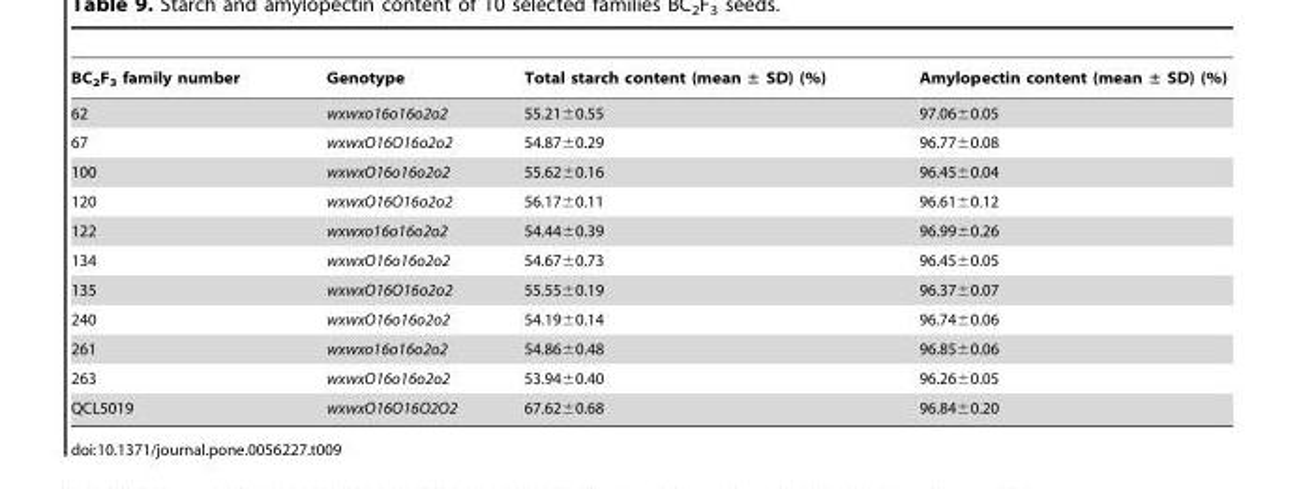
<table><thead><tr><td>BC<sub>2</sub>F<sub>3</sub> family number</td><td>Genotype</td><td>Total starch content (mean ± SD) (%)</td><td>Amylopectin content (mean ± SD) (%)</td></tr></thead><tbody><tr><td>62</td><td>wxwxo16o16o2o2</td><td>55.21±0.55</td><td>97.06±0.05</td></tr><tr><td>67</td><td>wxwxO16O16o2o2</td><td>54.87±0.29</td><td>96.77±0.08</td></tr><tr><td>100</td><td>wxwxO16o16o2o2</td><td>55.62±0.16</td><td>96.45±0.04</td></tr><tr><td>120</td><td>wxwxO16O16o2o2</td><td>56.17±0.11</td><td>96.61±0.12</td></tr><tr><td>122</td><td>wxwxo16o16o2o2</td><td>54.44±0.39</td><td>96.99±0.26</td></tr><tr><td>134</td><td>wxwxO16o16o2o2</td><td>54.67±0.73</td><td>96.45±0.05</td></tr><tr><td>135</td><td>wxwxO16O16o2o2</td><td>55.55±0.19</td><td>96.37±0.07</td></tr><tr><td>240</td><td>wxwxO16o16o2o2</td><td>54.19±0.14</td><td>96.74±0.06</td></tr><tr><td>261</td><td>wxwxo16o16o2o2</td><td>54.86±0.48</td><td>96.85±0.06</td></tr><tr><td>263</td><td>wxwxO16o16o2o2</td><td>53.94±0.40</td><td>96.26±0.05</td></tr><tr><td>QCL5019</td><td>wxwxO16O16O2O2</td><td>67.62±0.68</td><td>96.84±0.20</td></tr></tbody></table>